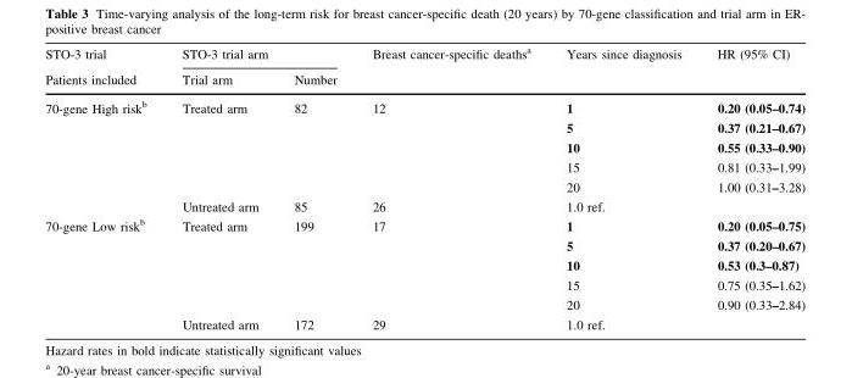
<table><thead><tr><td rowspan="2">STO-3 trial Patients included</td><td colspan="2">STO-3 trial arm</td><td rowspan="2">Breast cancer-specific deaths<sup>a</sup></td><td rowspan="2">Years since diagnosis</td><td rowspan="2">HR (95% CI)</td></tr><tr><td>Trial arm</td><td>Number</td></tr></thead><tbody><tr><td rowspan="6">70-gene High risk<sup>b</sup></td><td>Treated arm</td><td>82</td><td>12</td><td>1</td><td>0.20 (0.05–0.74)</td></tr><tr><td></td><td></td><td></td><td>5</td><td>0.37 (0.21–0.67)</td></tr><tr><td></td><td></td><td></td><td>10</td><td>0.55 (0.33–0.90)</td></tr><tr><td></td><td></td><td></td><td>15</td><td>0.81 (0.33–1.99)</td></tr><tr><td></td><td></td><td></td><td>20</td><td>1.00 (0.31–3.28)</td></tr><tr><td>Untreated arm</td><td>85</td><td>26</td><td>1.0 ref.</td><td></td></tr><tr><td rowspan="6">70-gene Low risk<sup>b</sup></td><td>Treated arm</td><td>199</td><td>17</td><td>1</td><td>0.20 (0.05–0.75)</td></tr><tr><td></td><td></td><td></td><td>5</td><td>0.37 (0.20–0.67)</td></tr><tr><td></td><td></td><td></td><td>10</td><td>0.53 (0.3–0.87)</td></tr><tr><td></td><td></td><td></td><td>15</td><td>0.75 (0.35–1.62)</td></tr><tr><td></td><td></td><td></td><td>20</td><td>0.90 (0.33–2.84)</td></tr><tr><td>Untreated arm</td><td>172</td><td>29</td><td>1.0 ref.</td><td></td></tr></tbody></table>